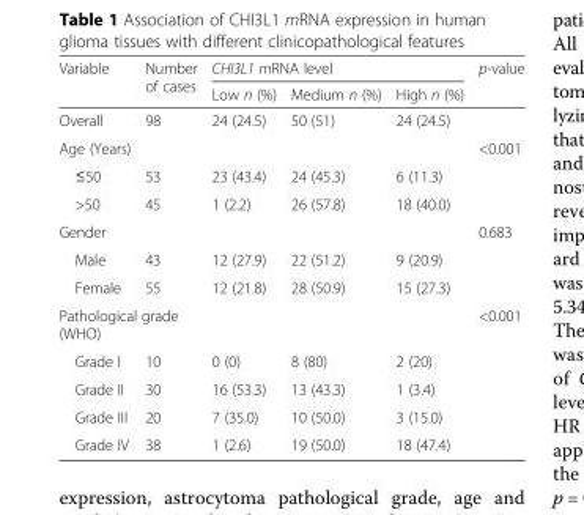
<table><thead><tr><td rowspan="2">Variable</td><td rowspan="2">Number of cases</td><td colspan="3">CHI3L1 mRNA level</td><td rowspan="2">p-value</td></tr><tr><td>Low n (%)</td><td>Medium n (%)</td><td>High n (%)</td></tr></thead><tbody><tr><td>Overall</td><td>98</td><td>24 (24.5)</td><td>50 (51)</td><td>24 (24.5)</td><td></td></tr><tr><td>Age (Years)</td><td></td><td></td><td></td><td></td><td>&lt;0.001</td></tr><tr><td>≤50</td><td>53</td><td>23 (43.4)</td><td>24 (45.3)</td><td>6 (11.3)</td><td rowspan="2"></td></tr><tr><td>&gt;50</td><td>45</td><td>1 (2.2)</td><td>26 (57.8)</td><td>18 (40.0)</td></tr><tr><td>Gender</td><td></td><td></td><td></td><td></td><td>0.683</td></tr><tr><td>Male</td><td>43</td><td>12 (27.9)</td><td>22 (51.2)</td><td>9 (20.9)</td><td rowspan="2"></td></tr><tr><td>Female</td><td>55</td><td>12 (21.8)</td><td>28 (50.9)</td><td>15 (27.3)</td></tr><tr><td colspan="2">Pathological grade (WHO)</td><td></td><td></td><td></td><td>&lt;0.001</td></tr><tr><td>Grade I</td><td>10</td><td>0 (0)</td><td>8 (80)</td><td>2 (20)</td><td rowspan="4"></td></tr><tr><td>Grade II</td><td>30</td><td>16 (53.3)</td><td>13 (43.3)</td><td>1 (3.4)</td></tr><tr><td>Grade III</td><td>20</td><td>7 (35.0)</td><td>10 (50.0)</td><td>3 (15.0)</td></tr><tr><td>Grade IV</td><td>38</td><td>1 (2.6)</td><td>19 (50.0)</td><td>18 (47.4)</td></tr></tbody></table>